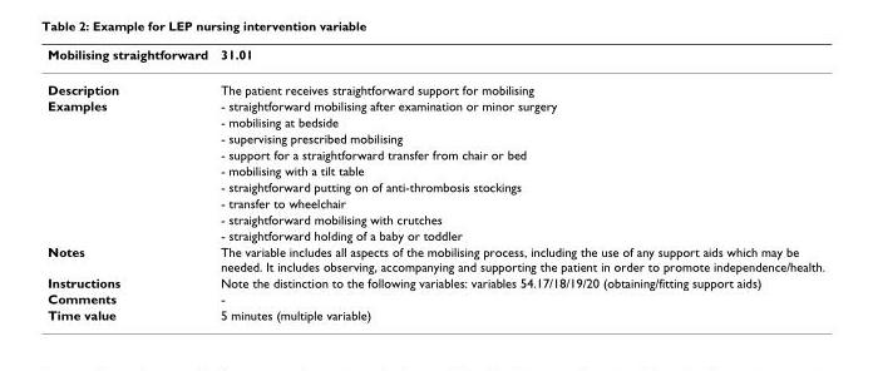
<table><thead><tr><td>Mobilising straightforward</td><td>31.01</td></tr></thead><tbody><tr><td>Description</td><td>The patient receives straightforward support for mobilising</td></tr><tr><td rowspan="9">Examples</td><td>- straightforward mobilising after examination or minor surgery</td></tr><tr><td>- mobilising at bedside</td></tr><tr><td>- supervising prescribed mobilising</td></tr><tr><td>- support for a straightforward transfer from chair or bed</td></tr><tr><td>- mobilising with a tilt table</td></tr><tr><td>- straightforward putting on of anti-thrombosis stockings</td></tr><tr><td>- transfer to wheelchair</td></tr><tr><td>- straightforward mobilising with crutches</td></tr><tr><td>- straightforward holding of a baby or toddler</td></tr><tr><td>Notes</td><td>The variable includes all aspects of the mobilising process, including the use of any support aids which may be needed. It includes observing, accompanying and supporting the patient in order to promote independence/health.</td></tr><tr><td>Instructions</td><td>Note the distinction to the following variables: variables 54.17/18/19/20 (obtaining/fitting support aids)</td></tr><tr><td>Comments</td><td>-</td></tr><tr><td>Time value</td><td>5 minutes (multiple variable)</td></tr></tbody></table>